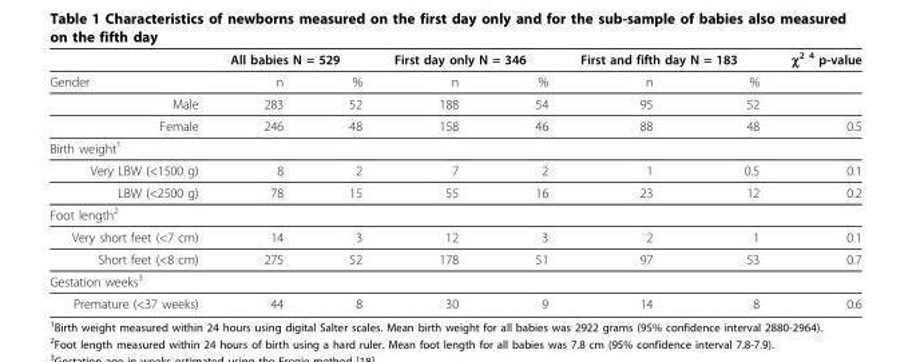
<table><thead><tr><td rowspan="2">Gender</td><td colspan="2">All babies N = 529</td><td colspan="2">First day only N = 346</td><td colspan="2">First and fifth day N = 183</td><td rowspan="2">χ<sup>2 4</sup> p-value</td></tr><tr><td>n</td><td>%</td><td>n</td><td>%</td><td>n</td><td>%</td></tr></thead><tbody><tr><td>Male</td><td>283</td><td>52</td><td>188</td><td>54</td><td>95</td><td>52</td><td></td></tr><tr><td>Female</td><td>246</td><td>48</td><td>158</td><td>46</td><td>88</td><td>48</td><td>0.5</td></tr><tr><td colspan="8">Birth weight<sup>1</sup></td></tr><tr><td>Very LBW (&lt;1500 g)</td><td>8</td><td>2</td><td>7</td><td>2</td><td>1</td><td>0.5</td><td>0.1</td></tr><tr><td>LBW (&lt;2500 g)</td><td>78</td><td>15</td><td>55</td><td>16</td><td>23</td><td>12</td><td>0.2</td></tr><tr><td colspan="8">Foot length<sup>2</sup></td></tr><tr><td>Very short feet (&lt;7 cm)</td><td>14</td><td>3</td><td>12</td><td>3</td><td>2</td><td>1</td><td>0.1</td></tr><tr><td>Short feet (&lt;8 cm)</td><td>275</td><td>52</td><td>178</td><td>51</td><td>97</td><td>53</td><td>0.7</td></tr><tr><td colspan="8">Gestation weeks<sup>3</sup></td></tr><tr><td>Premature (&lt;37 weeks)</td><td>44</td><td>8</td><td>30</td><td>9</td><td>14</td><td>8</td><td>0.6</td></tr></tbody></table>